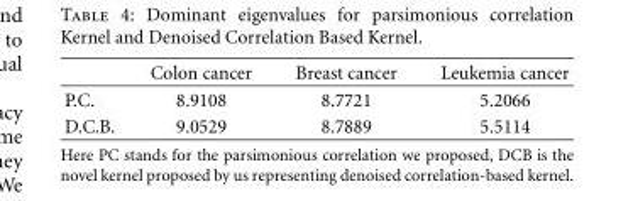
<table><thead><tr><td></td><td>Colon cancer</td><td>Breast cancer</td><td>Leukemia cancer</td></tr></thead><tbody><tr><td>P.C.</td><td>8.9108</td><td>8.7721</td><td>5.2066</td></tr><tr><td>D.C.B.</td><td>9.0529</td><td>8.7889</td><td>5.5114</td></tr></tbody></table>